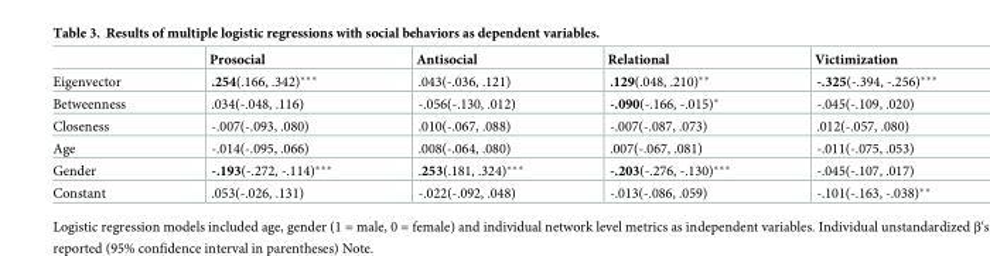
<table><thead><tr><td></td><td>Prosocial</td><td>Antisocial</td><td>Relational</td><td>Victimization</td></tr></thead><tbody><tr><td>Eigenvector</td><td>.254(.166, .342)***</td><td>.043(-.036, .121)</td><td>.129(.048, .210)**</td><td>-.325(-.394, -.256)***</td></tr><tr><td>Betweenness</td><td>.034(-.048, .116)</td><td>-.056(-.130, .012)</td><td>-.090(-.166, -.015)*</td><td>-.045(-.109, .020)</td></tr><tr><td>Closeness</td><td>-.007(-.093, .080)</td><td>.010(-.067, .088)</td><td>-.007(-.087, .073)</td><td>.012(-.057, .080)</td></tr><tr><td>Age</td><td>-.014(-.095, .066)</td><td>.008(-.064, .080)</td><td>.007(-.067, .081)</td><td>-.011(-.075, .053)</td></tr><tr><td>Gender</td><td>-.193(-.272, -.114)***</td><td>.253(.181, .324)***</td><td>-.203(-.276, -.130)***</td><td>-.045(-.107, .017)</td></tr><tr><td>Constant</td><td>.053(-.026, .131)</td><td>-.022(-.092, .048)</td><td>-.013(-.086, .059)</td><td>-.101(-.163, -.038)**</td></tr></tbody></table>